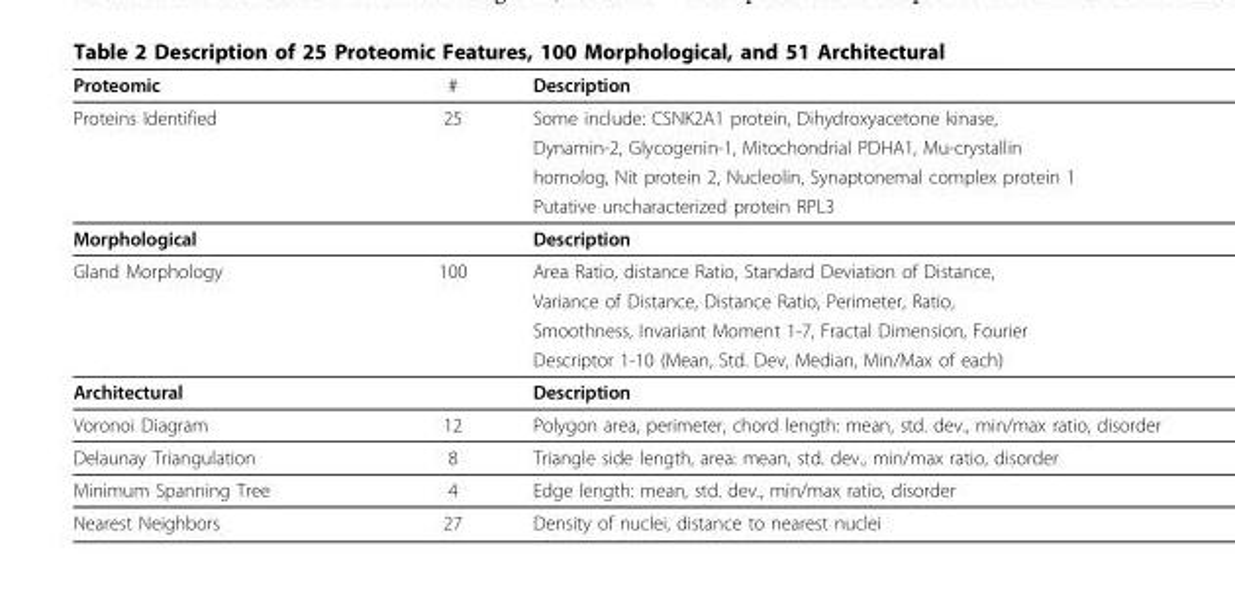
<table><thead><tr><td>Proteomic</td><td>#</td><td>Description</td></tr></thead><tbody><tr><td rowspan="4">Proteins Identified</td><td>25</td><td>Some include: CSNK2A1 protein, Dihydroxyacetone kinase,</td></tr><tr><td></td><td>Dynamin-2, Glycogenin-1, Mitochondrial PDHA1, Mu-crystallin</td></tr><tr><td></td><td>homolog, Nit protein 2, Nucleolin, Synaptonemal complex protein 1</td></tr><tr><td></td><td>Putative uncharacterized protein RPL3</td></tr><tr><td>Morphological</td><td></td><td>Description</td></tr><tr><td rowspan="4">Gland Morphology</td><td>100</td><td>Area Ratio, distance Ratio, Standard Deviation of Distance,</td></tr><tr><td></td><td>Variance of Distance, Distance Ratio, Perimeter, Ratio,</td></tr><tr><td></td><td>Smoothness, Invariant Moment 1-7, Fractal Dimension, Fourier</td></tr><tr><td></td><td>Descriptor 1-10 (Mean, Std. Dev, Median, Min/Max of each)</td></tr><tr><td>Architectural</td><td></td><td>Description</td></tr><tr><td>Voronoi Diagram</td><td>12</td><td>Polygon area, perimeter, chord length: mean, std. dev., min/max ratio, disorder</td></tr><tr><td>Delaunay Triangulation</td><td>8</td><td>Triangle side length, area: mean, std. dev., min/max ratio, disorder</td></tr><tr><td>Minimum Spanning Tree</td><td>4</td><td>Edge length: mean, std. dev., min/max ratio, disorder</td></tr><tr><td>Nearest Neighbors</td><td>27</td><td>Density of nuclei, distance to nearest nuclei</td></tr></tbody></table>